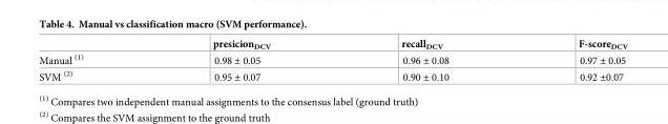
<table><thead><tr><td></td><td>presicion<sub>DCV</sub></td><td>recall<sub>DCV</sub></td><td>F-score<sub>DCV</sub></td></tr></thead><tbody><tr><td>Manual <sup>(1)</sup></td><td>0.98 ± 0.05</td><td>0.96 ± 0.08</td><td>0.97 ± 0.05</td></tr><tr><td>SVM <sup>(2)</sup></td><td>0.95 ± 0.07</td><td>0.90 ± 0.10</td><td>0.92 ±0.07</td></tr></tbody></table>